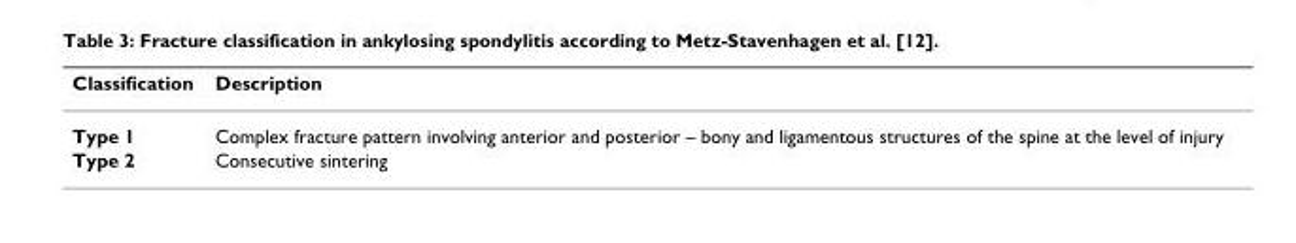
<table><thead><tr><td>Classification</td><td>Description</td></tr></thead><tbody><tr><td>Type 1</td><td>Complex fracture pattern involving anterior and posterior – bony and ligamentous structures of the spine at the level of injury</td></tr><tr><td>Type 2</td><td>Consecutive sintering</td></tr></tbody></table>